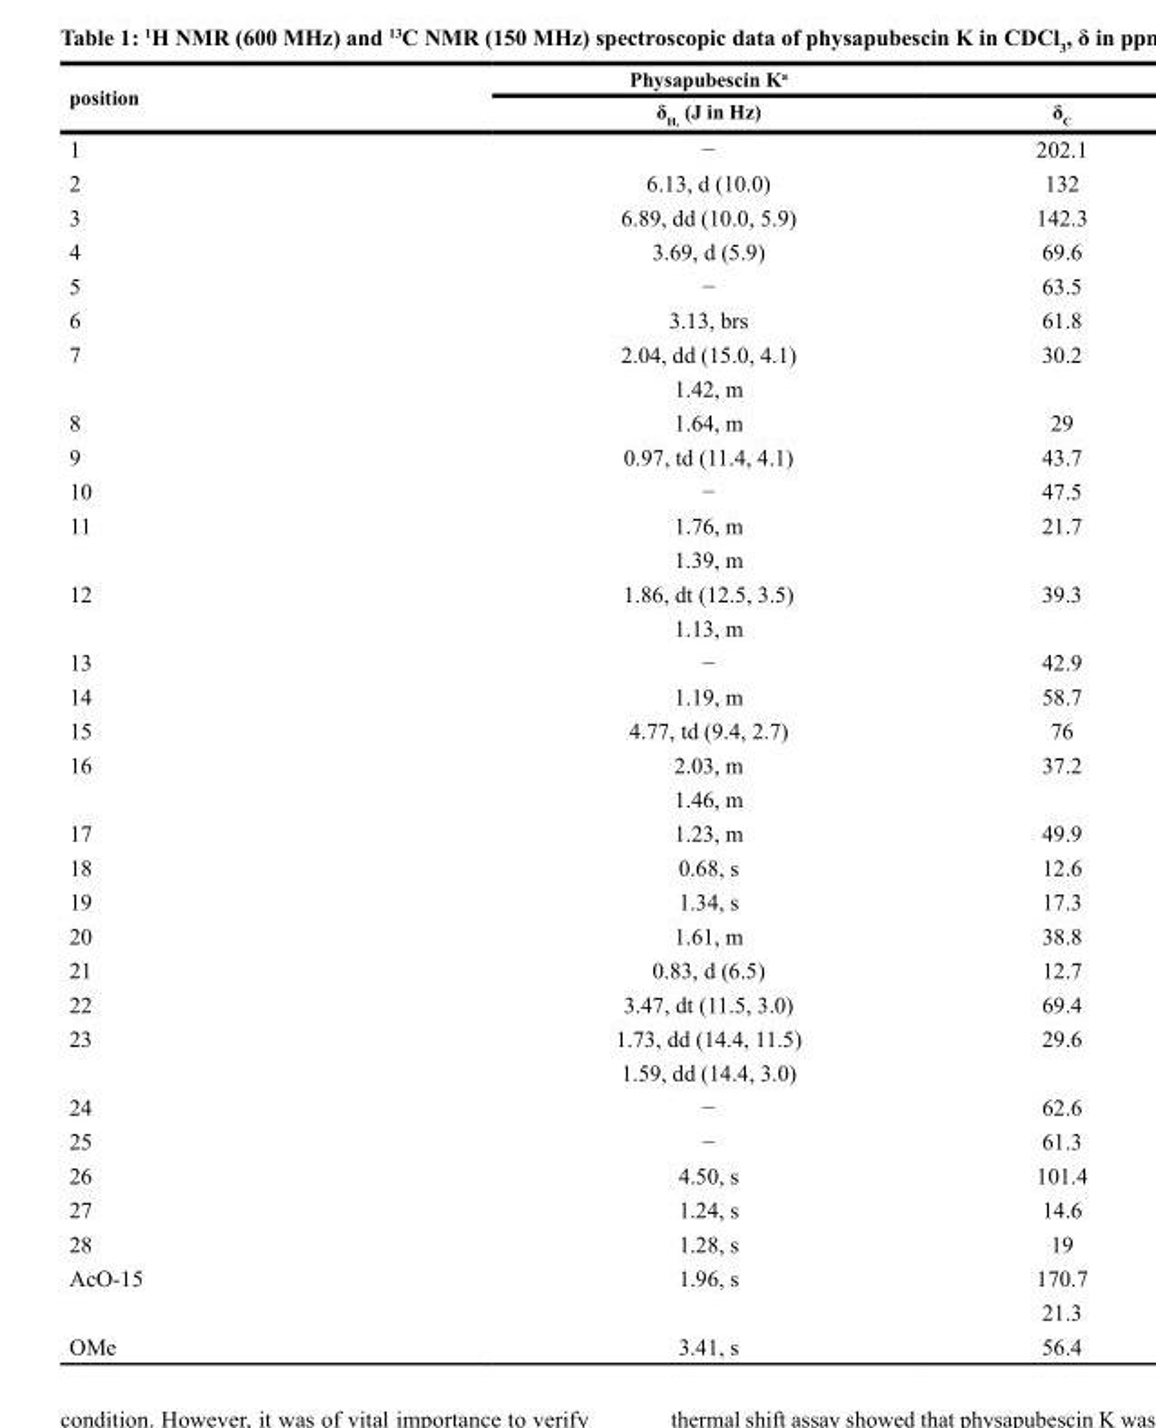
<table><thead><tr><td rowspan="2">position</td><td rowspan="2">Physapubescin K<sup>a</sup> δ<sub>H,</sub> (J in Hz)</td><td rowspan="2">δ<sub>C</sub></td></tr><tr></tr></thead><tbody><tr><td>1</td><td>−</td><td>202.1</td></tr><tr><td>2</td><td>6.13, d (10.0)</td><td>132</td></tr><tr><td>3</td><td>6.89, dd (10.0, 5.9)</td><td>142.3</td></tr><tr><td>4</td><td>3.69, d (5.9)</td><td>69.6</td></tr><tr><td>5</td><td>−</td><td>63.5</td></tr><tr><td>6</td><td>3.13, brs</td><td>61.8</td></tr><tr><td rowspan="2">7</td><td>2.04, dd (15.0, 4.1)</td><td>30.2</td></tr><tr><td>1.42, m</td><td></td></tr><tr><td>8</td><td>1.64, m</td><td>29</td></tr><tr><td>9</td><td>0.97, td (11.4, 4.1)</td><td>43.7</td></tr><tr><td>10</td><td>−</td><td>47.5</td></tr><tr><td rowspan="2">11</td><td>1.76, m</td><td>21.7</td></tr><tr><td>1.39, m</td><td></td></tr><tr><td rowspan="2">12</td><td>1.86, dt (12.5, 3.5)</td><td>39.3</td></tr><tr><td>1.13, m</td><td></td></tr><tr><td>13</td><td>−</td><td>42.9</td></tr><tr><td>14</td><td>1.19, m</td><td>58.7</td></tr><tr><td>15</td><td>4.77, td (9.4, 2.7)</td><td>76</td></tr><tr><td rowspan="2">16</td><td>2.03, m</td><td>37.2</td></tr><tr><td>1.46, m</td><td></td></tr><tr><td>17</td><td>1.23, m</td><td>49.9</td></tr><tr><td>18</td><td>0.68, s</td><td>12.6</td></tr><tr><td>19</td><td>1.34, s</td><td>17.3</td></tr><tr><td>20</td><td>1.61, m</td><td>38.8</td></tr><tr><td>21</td><td>0.83, d (6.5)</td><td>12.7</td></tr><tr><td>22</td><td>3.47, dt (11.5, 3.0)</td><td>69.4</td></tr><tr><td rowspan="2">23</td><td>1.73, dd (14.4, 11.5)</td><td>29.6</td></tr><tr><td>1.59, dd (14.4, 3.0)</td><td></td></tr><tr><td>24</td><td>−</td><td>62.6</td></tr><tr><td>25</td><td>−</td><td>61.3</td></tr><tr><td>26</td><td>4.50, s</td><td>101.4</td></tr><tr><td>27</td><td>1.24, s</td><td>14.6</td></tr><tr><td>28</td><td>1.28, s</td><td>19</td></tr><tr><td rowspan="2">AcO-15</td><td>1.96, s</td><td>170.7</td></tr><tr><td></td><td>21.3</td></tr><tr><td>OMe</td><td>3.41, s</td><td>56.4</td></tr></tbody></table>